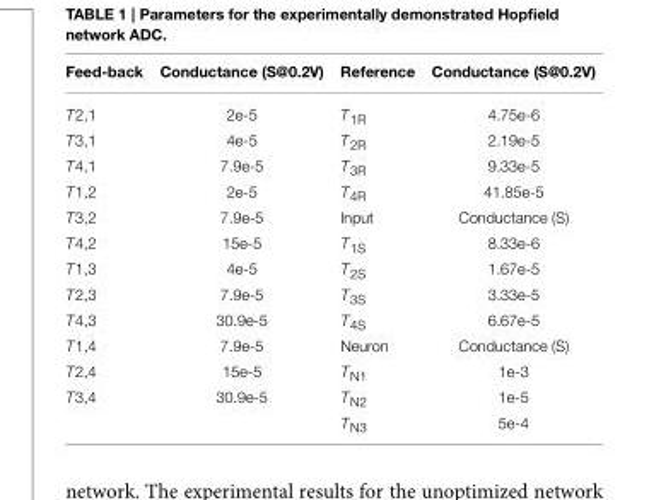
<table><thead><tr><td>Feed-back</td><td>Conductance (S@0.2V)</td><td>Reference</td><td>Conductance (S@0.2V)</td></tr></thead><tbody><tr><td>T2,1</td><td>2e-5</td><td>T<sub>1R</sub></td><td>4.75e-6</td></tr><tr><td>T3,1</td><td>4e-5</td><td>T<sub>2R</sub></td><td>2.19e-5</td></tr><tr><td>T4,1</td><td>7.9e-5</td><td>T<sub>3R</sub></td><td>9.33e-5</td></tr><tr><td>T1,2</td><td>2e-5</td><td>T<sub>4R</sub></td><td>41.85e-5</td></tr><tr><td>T3,2</td><td>7.9e-5</td><td>Input</td><td>Conductance (S)</td></tr><tr><td>T4,2</td><td>15e-5</td><td>T<sub>1S</sub></td><td>8.33e-6</td></tr><tr><td>T1,3</td><td>4e-5</td><td>T<sub>2S</sub></td><td>1.67e-5</td></tr><tr><td>T2,3</td><td>7.9e-5</td><td>T<sub>3S</sub></td><td>3.33e-5</td></tr><tr><td>T4,3</td><td>30.9e-5</td><td>T<sub>4S</sub></td><td>6.67e-5</td></tr><tr><td>T1,4</td><td>7.9e-5</td><td>Neuron</td><td>Conductance (S)</td></tr><tr><td>T2,4</td><td>15e-5</td><td>T<sub>N1</sub></td><td>1e-3</td></tr><tr><td>T3,4</td><td>30.9e-5</td><td>T<sub>N2</sub></td><td>1e-5</td></tr><tr><td colspan="2"></td><td>T<sub>N3</sub></td><td>5e-4</td></tr></tbody></table>